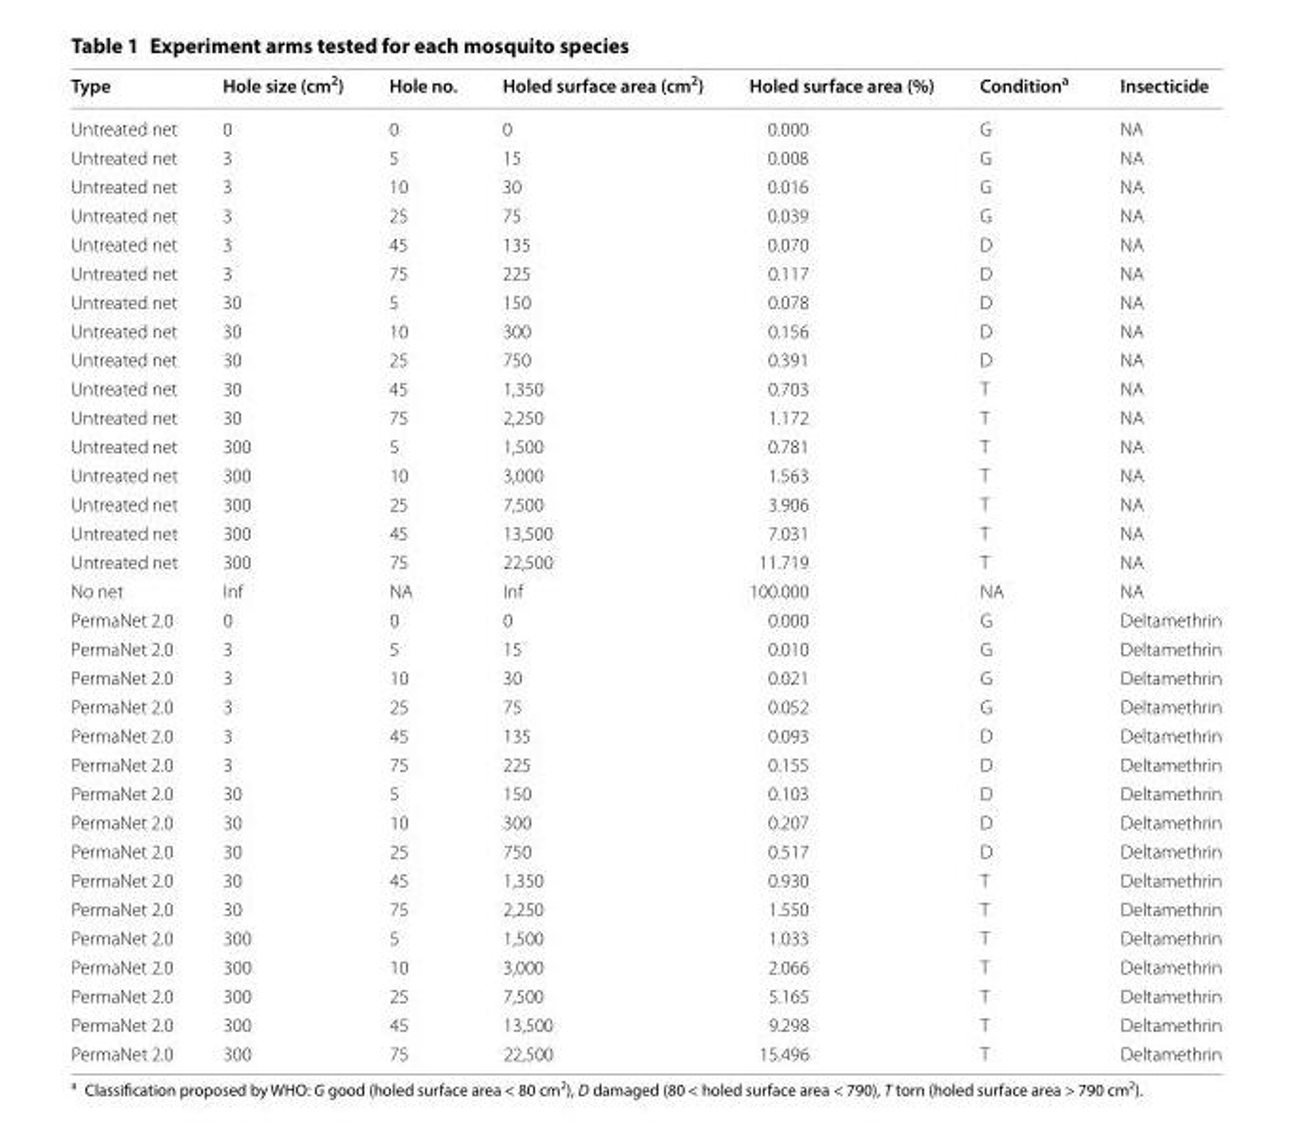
<table><thead><tr><td>Type</td><td>Hole size (cm<sup>2</sup>)</td><td>Hole no.</td><td>Holed surface area (cm<sup>2</sup>)</td><td>Holed surface area (%)</td><td>Condition<sup>a</sup></td><td>Insecticide</td></tr></thead><tbody><tr><td>Untreated net</td><td>0</td><td>0</td><td>0</td><td>0.000</td><td>G</td><td>NA</td></tr><tr><td>Untreated net</td><td>3</td><td>5</td><td>15</td><td>0.008</td><td>G</td><td>NA</td></tr><tr><td>Untreated net</td><td>3</td><td>10</td><td>30</td><td>0.016</td><td>G</td><td>NA</td></tr><tr><td>Untreated net</td><td>3</td><td>25</td><td>75</td><td>0.039</td><td>G</td><td>NA</td></tr><tr><td>Untreated net</td><td>3</td><td>45</td><td>135</td><td>0.070</td><td>D</td><td>NA</td></tr><tr><td>Untreated net</td><td>3</td><td>75</td><td>225</td><td>0.117</td><td>D</td><td>NA</td></tr><tr><td>Untreated net</td><td>30</td><td>5</td><td>150</td><td>0.078</td><td>D</td><td>NA</td></tr><tr><td>Untreated net</td><td>30</td><td>10</td><td>300</td><td>0.156</td><td>D</td><td>NA</td></tr><tr><td>Untreated net</td><td>30</td><td>25</td><td>750</td><td>0.391</td><td>D</td><td>NA</td></tr><tr><td>Untreated net</td><td>30</td><td>45</td><td>1,350</td><td>0.703</td><td>T</td><td>NA</td></tr><tr><td>Untreated net</td><td>30</td><td>75</td><td>2,250</td><td>1.172</td><td>T</td><td>NA</td></tr><tr><td>Untreated net</td><td>300</td><td>5</td><td>1,500</td><td>0.781</td><td>T</td><td>NA</td></tr><tr><td>Untreated net</td><td>300</td><td>10</td><td>3,000</td><td>1.563</td><td>T</td><td>NA</td></tr><tr><td>Untreated net</td><td>300</td><td>25</td><td>7,500</td><td>3.906</td><td>T</td><td>NA</td></tr><tr><td>Untreated net</td><td>300</td><td>45</td><td>13,500</td><td>7.031</td><td>T</td><td>NA</td></tr><tr><td>Untreated net</td><td>300</td><td>75</td><td>22,500</td><td>11.719</td><td>T</td><td>NA</td></tr><tr><td>No net</td><td>Inf</td><td>NA</td><td>Inf</td><td>100.000</td><td>NA</td><td>NA</td></tr><tr><td>PermaNet 2.0</td><td>0</td><td>0</td><td>0</td><td>0.000</td><td>G</td><td>Deltamethrin</td></tr><tr><td>PermaNet 2.0</td><td>3</td><td>5</td><td>15</td><td>0.010</td><td>G</td><td>Deltamethrin</td></tr><tr><td>PermaNet 2.0</td><td>3</td><td>10</td><td>30</td><td>0.021</td><td>G</td><td>Deltamethrin</td></tr><tr><td>PermaNet 2.0</td><td>3</td><td>25</td><td>75</td><td>0.052</td><td>G</td><td>Deltamethrin</td></tr><tr><td>PermaNet 2.0</td><td>3</td><td>45</td><td>135</td><td>0.093</td><td>D</td><td>Deltamethrin</td></tr><tr><td>PermaNet 2.0</td><td>3</td><td>75</td><td>225</td><td>0.155</td><td>D</td><td>Deltamethrin</td></tr><tr><td>PermaNet 2.0</td><td>30</td><td>5</td><td>150</td><td>0.103</td><td>D</td><td>Deltamethrin</td></tr><tr><td>PermaNet 2.0</td><td>30</td><td>10</td><td>300</td><td>0.207</td><td>D</td><td>Deltamethrin</td></tr><tr><td>PermaNet 2.0</td><td>30</td><td>25</td><td>750</td><td>0.517</td><td>D</td><td>Deltamethrin</td></tr><tr><td>PermaNet 2.0</td><td>30</td><td>45</td><td>1,350</td><td>0.930</td><td>T</td><td>Deltamethrin</td></tr><tr><td>PermaNet 2.0</td><td>30</td><td>75</td><td>2,250</td><td>1.550</td><td>T</td><td>Deltamethrin</td></tr><tr><td>PermaNet 2.0</td><td>300</td><td>5</td><td>1,500</td><td>1.033</td><td>T</td><td>Deltamethrin</td></tr><tr><td>PermaNet 2.0</td><td>300</td><td>10</td><td>3,000</td><td>2.066</td><td>T</td><td>Deltamethrin</td></tr><tr><td>PermaNet 2.0</td><td>300</td><td>25</td><td>7,500</td><td>5.165</td><td>T</td><td>Deltamethrin</td></tr><tr><td>PermaNet 2.0</td><td>300</td><td>45</td><td>13,500</td><td>9.298</td><td>T</td><td>Deltamethrin</td></tr><tr><td>PermaNet 2.0</td><td>300</td><td>75</td><td>22,500</td><td>15.496</td><td>T</td><td>Deltamethrin</td></tr></tbody></table>